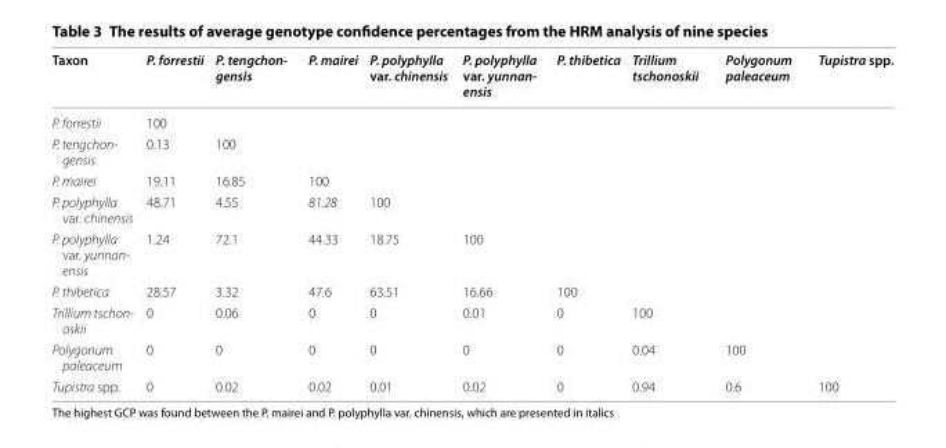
<table><thead><tr><td>Taxon</td><td>P. forrestii</td><td>P. tengchon- gensis</td><td>P. mairei</td><td>P. polyphylla var. chinensis</td><td>P. polyphylla var. yunnan- ensis</td><td>P. thibetica</td><td>Trillium tschonoskii</td><td>Polygonum paleaceum</td><td>Tupistra spp.</td></tr></thead><tbody><tr><td>P. forrestii</td><td>100</td><td></td><td></td><td></td><td></td><td></td><td></td><td></td><td></td></tr><tr><td>P. tengchon- gensis</td><td>0.13</td><td>100</td><td></td><td></td><td></td><td></td><td></td><td></td><td></td></tr><tr><td>P. mairei</td><td>19.11</td><td>16.85</td><td>100</td><td></td><td></td><td></td><td></td><td></td><td></td></tr><tr><td>P. polyphylla var. chinensis</td><td>48.71</td><td>4.55</td><td>81.28</td><td>100</td><td></td><td></td><td></td><td></td><td></td></tr><tr><td>P. polyphylla var. yunnan- ensis</td><td>1.24</td><td>72.1</td><td>44.33</td><td>18.75</td><td>100</td><td></td><td></td><td></td><td></td></tr><tr><td>P. thibetica</td><td>28.57</td><td>3.32</td><td>47.6</td><td>63.51</td><td>16.66</td><td>100</td><td></td><td></td><td></td></tr><tr><td>Trillium tschon- oskii</td><td>0</td><td>0.06</td><td>0</td><td>0</td><td>0.01</td><td>0</td><td>100</td><td></td><td></td></tr><tr><td>Polygonum paleaceum</td><td>0</td><td>0</td><td>0</td><td>0</td><td>0</td><td>0</td><td>0.04</td><td>100</td><td></td></tr><tr><td>Tupistra spp.</td><td>0</td><td>0.02</td><td>0.02</td><td>0.01</td><td>0.02</td><td>0</td><td>0.94</td><td>0.6</td><td>100</td></tr></tbody></table>